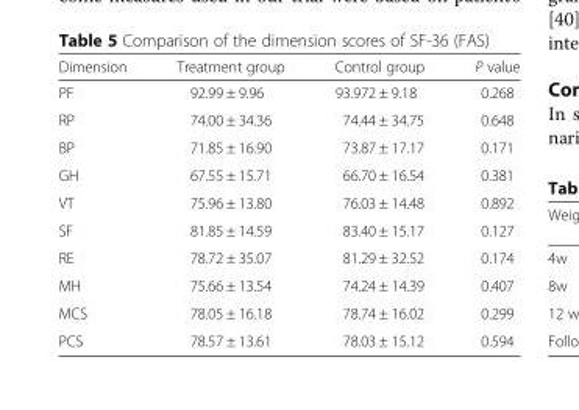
<table><thead><tr><td>Dimension</td><td>Treatment group</td><td>Control group</td><td>P value</td></tr></thead><tbody><tr><td>PF</td><td>92.99 ± 9.96</td><td>93.972 ± 9.18</td><td>0.268</td></tr><tr><td>RP</td><td>74.00 ± 34.36</td><td>74.44 ± 34.75</td><td>0.648</td></tr><tr><td>BP</td><td>71.85 ± 16.90</td><td>73.87 ± 17.17</td><td>0.171</td></tr><tr><td>GH</td><td>67.55 ± 15.71</td><td>66.70 ± 16.54</td><td>0.381</td></tr><tr><td>VT</td><td>75.96 ± 13.80</td><td>76.03 ± 14.48</td><td>0.892</td></tr><tr><td>SF</td><td>81.85 ± 14.59</td><td>83.40 ± 15.17</td><td>0.127</td></tr><tr><td>RE</td><td>78.72 ± 35.07</td><td>81.29 ± 32.52</td><td>0.174</td></tr><tr><td>MH</td><td>75.66 ± 13.54</td><td>74.24 ± 14.39</td><td>0.407</td></tr><tr><td>MCS</td><td>78.05 ± 16.18</td><td>78.74 ± 16.02</td><td>0.299</td></tr><tr><td>PCS</td><td>78.57 ± 13.61</td><td>78.03 ± 15.12</td><td>0.594</td></tr></tbody></table>